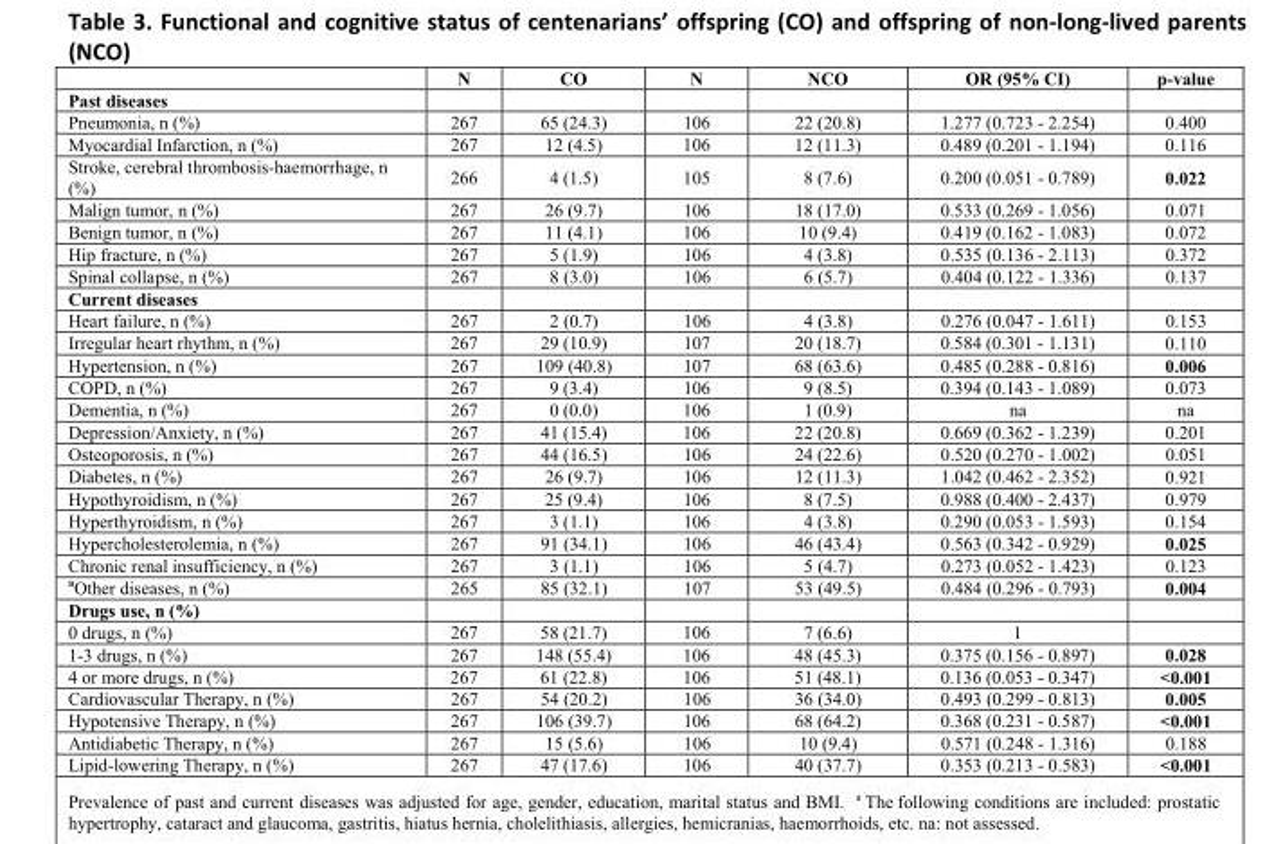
<table><thead><tr><td></td><td>N</td><td>CO</td><td>N</td><td>NCO</td><td>OR (95% CI)</td><td>p-value</td></tr></thead><tbody><tr><td colspan="7">Past diseases</td></tr><tr><td>Pneumonia, n (%)</td><td>267</td><td>65 (24.3)</td><td>106</td><td>22 (20.8)</td><td>1.277 (0.723 - 2.254)</td><td>0.400</td></tr><tr><td>Myocardial Infarction, n (%)</td><td>267</td><td>12 (4.5)</td><td>106</td><td>12 (11.3)</td><td>0.489 (0.201 - 1.194)</td><td>0.116</td></tr><tr><td>Stroke, cerebral thrombosis-haemorrhage, n (%)</td><td>266</td><td>4 (1.5)</td><td>105</td><td>8 (7.6)</td><td>0.200 (0.051 - 0.789)</td><td>0.022</td></tr><tr><td>Malign tumor, n (%)</td><td>267</td><td>26 (9.7)</td><td>106</td><td>18 (17.0)</td><td>0.533 (0.269 - 1.056)</td><td>0.071</td></tr><tr><td>Benign tumor, n (%)</td><td>267</td><td>11 (4.1)</td><td>106</td><td>10 (9.4)</td><td>0.419 (0.162 - 1.083)</td><td>0.072</td></tr><tr><td>Hip fracture, n (%)</td><td>267</td><td>5 (1.9)</td><td>106</td><td>4 (3.8)</td><td>0.535 (0.136 - 2.113)</td><td>0.372</td></tr><tr><td>Spinal collapse, n (%)</td><td>267</td><td>8 (3.0)</td><td>106</td><td>6 (5.7)</td><td>0.404 (0.122 - 1.336)</td><td>0.137</td></tr><tr><td colspan="7">Current diseases</td></tr><tr><td>Heart failure, n (%)</td><td>267</td><td>2 (0.7)</td><td>106</td><td>4 (3.8)</td><td>0.276 (0.047 - 1.611)</td><td>0.153</td></tr><tr><td>Irregular heart rhythm, n (%)</td><td>267</td><td>29 (10.9)</td><td>107</td><td>20 (18.7)</td><td>0.584 (0.301 - 1.131)</td><td>0.110</td></tr><tr><td>Hypertension, n (%)</td><td>267</td><td>109 (40.8)</td><td>107</td><td>68 (63.6)</td><td>0.485 (0.288 - 0.816)</td><td>0.006</td></tr><tr><td>COPD, n (%)</td><td>267</td><td>9 (3.4)</td><td>106</td><td>9 (8.5)</td><td>0.394 (0.143 - 1.089)</td><td>0.073</td></tr><tr><td>Dementia, n (%)</td><td>267</td><td>0 (0.0)</td><td>106</td><td>1 (0.9)</td><td>na</td><td>na</td></tr><tr><td>Depression/Anxiety, n (%)</td><td>267</td><td>41 (15.4)</td><td>106</td><td>22 (20.8)</td><td>0.669 (0.362 - 1.239)</td><td>0.201</td></tr><tr><td>Osteoporosis, n (%)</td><td>267</td><td>44 (16.5)</td><td>106</td><td>24 (22.6)</td><td>0.520 (0.270 - 1.002)</td><td>0.051</td></tr><tr><td>Diabetes, n (%)</td><td>267</td><td>26 (9.7)</td><td>106</td><td>12 (11.3)</td><td>1.042 (0.462 - 2.352)</td><td>0.921</td></tr><tr><td>Hypothyroidism, n (%)</td><td>267</td><td>25 (9.4)</td><td>106</td><td>8 (7.5)</td><td>0.988 (0.400 - 2.437)</td><td>0.979</td></tr><tr><td>Hyperthyroidism, n (%)</td><td>267</td><td>3 (1.1)</td><td>106</td><td>4 (3.8)</td><td>0.290 (0.053 - 1.593)</td><td>0.154</td></tr><tr><td>Hypercholesterolemia, n (%)</td><td>267</td><td>91 (34.1)</td><td>106</td><td>46 (43.4)</td><td>0.563 (0.342 - 0.929)</td><td>0.025</td></tr><tr><td>Chronic renal insufficiency, n (%)</td><td>267</td><td>3 (1.1)</td><td>106</td><td>5 (4.7)</td><td>0.273 (0.052 - 1.423)</td><td>0.123</td></tr><tr><td><sup>a</sup>Other diseases, n (%)</td><td>265</td><td>85 (32.1)</td><td>107</td><td>53 (49.5)</td><td>0.484 (0.296 - 0.793)</td><td>0.004</td></tr><tr><td colspan="7">Drugs use, n (%)</td></tr><tr><td>0 drugs, n (%)</td><td>267</td><td>58 (21.7)</td><td>106</td><td>7 (6.6)</td><td>1</td><td></td></tr><tr><td>1-3 drugs, n (%)</td><td>267</td><td>148 (55.4)</td><td>106</td><td>48 (45.3)</td><td>0.375 (0.156 - 0.897)</td><td>0.028</td></tr><tr><td>4 or more drugs, n (%)</td><td>267</td><td>61 (22.8)</td><td>106</td><td>51 (48.1)</td><td>0.136 (0.053 - 0.347)</td><td>&lt;0.001</td></tr><tr><td>Cardiovascular Therapy, n (%)</td><td>267</td><td>54 (20.2)</td><td>106</td><td>36 (34.0)</td><td>0.493 (0.299 - 0.813)</td><td>0.005</td></tr><tr><td>Hypotensive Therapy, n (%)</td><td>267</td><td>106 (39.7)</td><td>106</td><td>68 (64.2)</td><td>0.368 (0.231 - 0.587)</td><td>&lt;0.001</td></tr><tr><td>Antidiabetic Therapy, n (%)</td><td>267</td><td>15 (5.6)</td><td>106</td><td>10 (9.4)</td><td>0.571 (0.248 - 1.316)</td><td>0.188</td></tr><tr><td>Lipid-lowering Therapy, n (%)</td><td>267</td><td>47 (17.6)</td><td>106</td><td>40 (37.7)</td><td>0.353 (0.213 - 0.583)</td><td>&lt;0.001</td></tr></tbody></table>